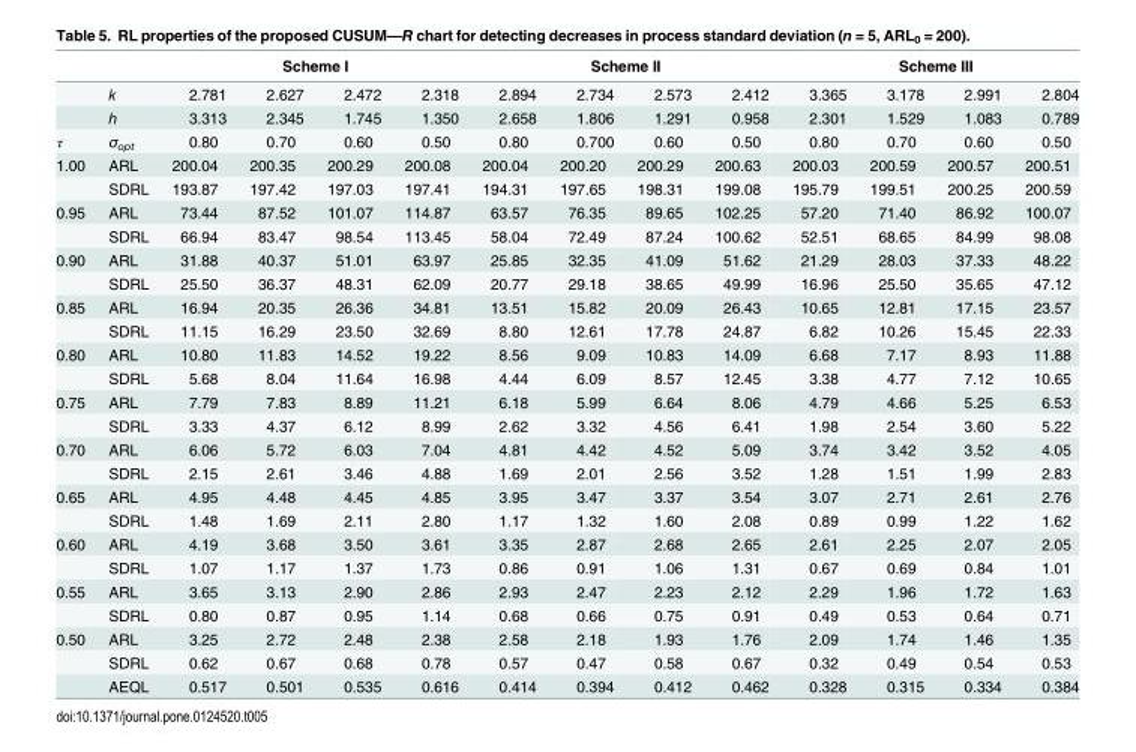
<table><thead><tr><td rowspan="2"></td><td rowspan="2">k</td><td colspan="4">Scheme I</td><td colspan="4">Scheme II</td><td colspan="4">Scheme III</td></tr><tr><td>2.781</td><td>2.627</td><td>2.472</td><td>2.318</td><td>2.894</td><td>2.734</td><td>2.573</td><td>2.412</td><td>3.365</td><td>3.178</td><td>2.991</td><td>2.804</td></tr></thead><tbody><tr><td></td><td>h</td><td>3.313</td><td>2.345</td><td>1.745</td><td>1.350</td><td>2.658</td><td>1.806</td><td>1.291</td><td>0.958</td><td>2.301</td><td>1.529</td><td>1.083</td><td>0.789</td></tr><tr><td>τ</td><td>σ<sub>opt</sub></td><td>0.80</td><td>0.70</td><td>0.60</td><td>0.50</td><td>0.80</td><td>0.700</td><td>0.60</td><td>0.50</td><td>0.80</td><td>0.70</td><td>0.60</td><td>0.50</td></tr><tr><td rowspan="2">1.00</td><td>ARL</td><td>200.04</td><td>200.35</td><td>200.29</td><td>200.08</td><td>200.04</td><td>200.20</td><td>200.29</td><td>200.63</td><td>200.03</td><td>200.59</td><td>200.57</td><td>200.51</td></tr><tr><td>SDRL</td><td>193.87</td><td>197.42</td><td>197.03</td><td>197.41</td><td>194.31</td><td>197.65</td><td>198.31</td><td>199.08</td><td>195.79</td><td>199.51</td><td>200.25</td><td>200.59</td></tr><tr><td rowspan="2">0.95</td><td>ARL</td><td>73.44</td><td>87.52</td><td>101.07</td><td>114.87</td><td>63.57</td><td>76.35</td><td>89.65</td><td>102.25</td><td>57.20</td><td>71.40</td><td>86.92</td><td>100.07</td></tr><tr><td>SDRL</td><td>66.94</td><td>83.47</td><td>98.54</td><td>113.45</td><td>58.04</td><td>72.49</td><td>87.24</td><td>100.62</td><td>52.51</td><td>68.65</td><td>84.99</td><td>98.08</td></tr><tr><td rowspan="2">0.90</td><td>ARL</td><td>31.88</td><td>40.37</td><td>51.01</td><td>63.97</td><td>25.85</td><td>32.35</td><td>41.09</td><td>51.62</td><td>21.29</td><td>28.03</td><td>37.33</td><td>48.22</td></tr><tr><td>SDRL</td><td>25.50</td><td>36.37</td><td>48.31</td><td>62.09</td><td>20.77</td><td>29.18</td><td>38.65</td><td>49.99</td><td>16.96</td><td>25.50</td><td>35.65</td><td>47.12</td></tr><tr><td rowspan="2">0.85</td><td>ARL</td><td>16.94</td><td>20.35</td><td>26.36</td><td>34.81</td><td>13.51</td><td>15.82</td><td>20.09</td><td>26.43</td><td>10.65</td><td>12.81</td><td>17.15</td><td>23.57</td></tr><tr><td>SDRL</td><td>11.15</td><td>16.29</td><td>23.50</td><td>32.69</td><td>8.80</td><td>12.61</td><td>17.78</td><td>24.87</td><td>6.82</td><td>10.26</td><td>15.45</td><td>22.33</td></tr><tr><td rowspan="2">0.80</td><td>ARL</td><td>10.80</td><td>11.83</td><td>14.52</td><td>19.22</td><td>8.56</td><td>9.09</td><td>10.83</td><td>14.09</td><td>6.68</td><td>7.17</td><td>8.93</td><td>11.88</td></tr><tr><td>SDRL</td><td>5.68</td><td>8.04</td><td>11.64</td><td>16.98</td><td>4.44</td><td>6.09</td><td>8.57</td><td>12.45</td><td>3.38</td><td>4.77</td><td>7.12</td><td>10.65</td></tr><tr><td rowspan="2">0.75</td><td>ARL</td><td>7.79</td><td>7.83</td><td>8.89</td><td>11.21</td><td>6.18</td><td>5.99</td><td>6.64</td><td>8.06</td><td>4.79</td><td>4.66</td><td>5.25</td><td>6.53</td></tr><tr><td>SDRL</td><td>3.33</td><td>4.37</td><td>6.12</td><td>8.99</td><td>2.62</td><td>3.32</td><td>4.56</td><td>6.41</td><td>1.98</td><td>2.54</td><td>3.60</td><td>5.22</td></tr><tr><td rowspan="2">0.70</td><td>ARL</td><td>6.06</td><td>5.72</td><td>6.03</td><td>7.04</td><td>4.81</td><td>4.42</td><td>4.52</td><td>5.09</td><td>3.74</td><td>3.42</td><td>3.52</td><td>4.05</td></tr><tr><td>SDRL</td><td>2.15</td><td>2.61</td><td>3.46</td><td>4.88</td><td>1.69</td><td>2.01</td><td>2.56</td><td>3.52</td><td>1.28</td><td>1.51</td><td>1.99</td><td>2.83</td></tr><tr><td rowspan="2">0.65</td><td>ARL</td><td>4.95</td><td>4.48</td><td>4.45</td><td>4.85</td><td>3.95</td><td>3.47</td><td>3.37</td><td>3.54</td><td>3.07</td><td>2.71</td><td>2.61</td><td>2.76</td></tr><tr><td>SDRL</td><td>1.48</td><td>1.69</td><td>2.11</td><td>2.80</td><td>1.17</td><td>1.32</td><td>1.60</td><td>2.08</td><td>0.89</td><td>0.99</td><td>1.22</td><td>1.62</td></tr><tr><td rowspan="2">0.60</td><td>ARL</td><td>4.19</td><td>3.68</td><td>3.50</td><td>3.61</td><td>3.35</td><td>2.87</td><td>2.68</td><td>2.65</td><td>2.61</td><td>2.25</td><td>2.07</td><td>2.05</td></tr><tr><td>SDRL</td><td>1.07</td><td>1.17</td><td>1.37</td><td>1.73</td><td>0.86</td><td>0.91</td><td>1.06</td><td>1.31</td><td>0.67</td><td>0.69</td><td>0.84</td><td>1.01</td></tr><tr><td rowspan="2">0.55</td><td>ARL</td><td>3.65</td><td>3.13</td><td>2.90</td><td>2.86</td><td>2.93</td><td>2.47</td><td>2.23</td><td>2.12</td><td>2.29</td><td>1.96</td><td>1.72</td><td>1.63</td></tr><tr><td>SDRL</td><td>0.80</td><td>0.87</td><td>0.95</td><td>1.14</td><td>0.68</td><td>0.66</td><td>0.75</td><td>0.91</td><td>0.49</td><td>0.53</td><td>0.64</td><td>0.71</td></tr><tr><td rowspan="3">0.50</td><td>ARL</td><td>3.25</td><td>2.72</td><td>2.48</td><td>2.38</td><td>2.58</td><td>2.18</td><td>1.93</td><td>1.76</td><td>2.09</td><td>1.74</td><td>1.46</td><td>1.35</td></tr><tr><td>SDRL</td><td>0.62</td><td>0.67</td><td>0.68</td><td>0.78</td><td>0.57</td><td>0.47</td><td>0.58</td><td>0.67</td><td>0.32</td><td>0.49</td><td>0.54</td><td>0.53</td></tr><tr><td>AEQL</td><td>0.517</td><td>0.501</td><td>0.535</td><td>0.616</td><td>0.414</td><td>0.394</td><td>0.412</td><td>0.462</td><td>0.328</td><td>0.315</td><td>0.334</td><td>0.384</td></tr></tbody></table>